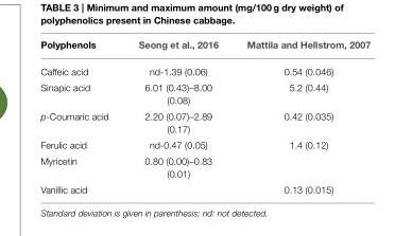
<table><thead><tr><td>Polyphenols</td><td>Seong et al., 2016</td><td>Mattila and Hellstrom, 2007</td></tr></thead><tbody><tr><td>Caffeic acid</td><td>nd-1.39 (0.06)</td><td>0.54 (0.046)</td></tr><tr><td>Sinapic acid</td><td>6.01 (0.43)–8.00 (0.08)</td><td>5.2 (0.44)</td></tr><tr><td>p-Coumaric acid</td><td>2.20 (0.07)–2.89 (0.17)</td><td>0.42 (0.035)</td></tr><tr><td>Ferulic acid</td><td>nd-0.47 (0.05)</td><td>1.4 (0.12)</td></tr><tr><td>Myricetin</td><td>0.80 (0.00)–0.83 (0.01)</td><td></td></tr><tr><td>Vanillic acid</td><td></td><td>0.13 (0.015)</td></tr></tbody></table>